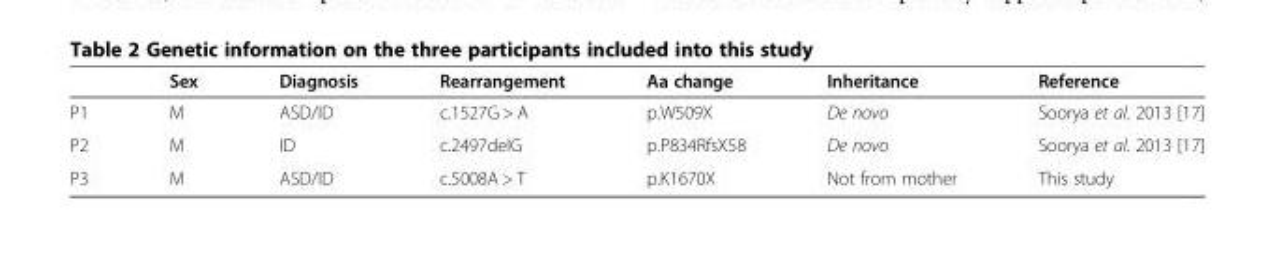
<table><thead><tr><td></td><td>Sex</td><td>Diagnosis</td><td>Rearrangement</td><td>Aa change</td><td>Inheritance</td><td>Reference</td></tr></thead><tbody><tr><td>P1</td><td>M</td><td>ASD/ID</td><td>c.1527G &gt; A</td><td>p.W509X</td><td>De novo</td><td>Soorya et al. 2013 [17]</td></tr><tr><td>P2</td><td>M</td><td>ID</td><td>c.2497delG</td><td>p.P834RfsX58</td><td>De novo</td><td>Soorya et al. 2013 [17]</td></tr><tr><td>P3</td><td>M</td><td>ASD/ID</td><td>c.5008A &gt; T</td><td>p.K1670X</td><td>Not from mother</td><td>This study</td></tr></tbody></table>